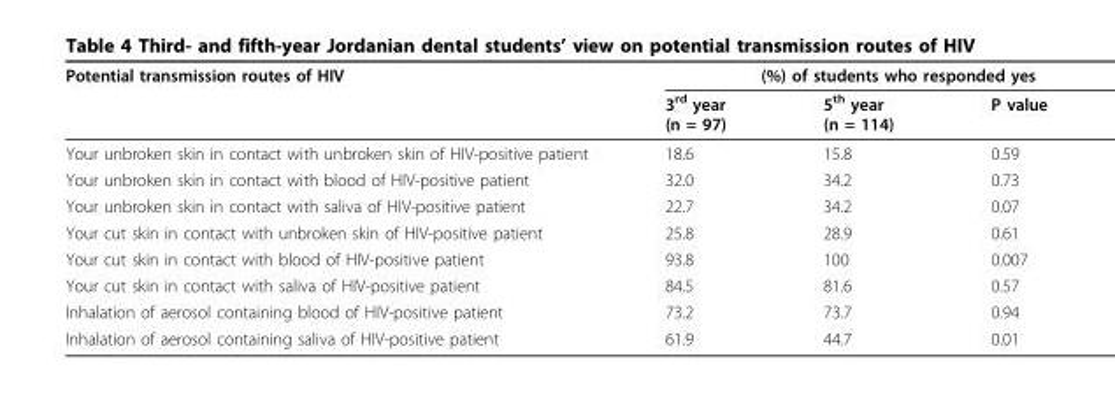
<table><thead><tr><td rowspan="2">Potential transmission routes of HIV</td><td colspan="3">(%) of students who responded yes</td></tr><tr><td>3<sup>rd</sup> year (n = 97)</td><td>5<sup>th</sup> year (n = 114)</td><td>P value</td></tr></thead><tbody><tr><td>Your unbroken skin in contact with unbroken skin of HIV-positive patient</td><td>18.6</td><td>15.8</td><td>0.59</td></tr><tr><td>Your unbroken skin in contact with blood of HIV-positive patient</td><td>32.0</td><td>34.2</td><td>0.73</td></tr><tr><td>Your unbroken skin in contact with saliva of HIV-positive patient</td><td>22.7</td><td>34.2</td><td>0.07</td></tr><tr><td>Your cut skin in contact with unbroken skin of HIV-positive patient</td><td>25.8</td><td>28.9</td><td>0.61</td></tr><tr><td>Your cut skin in contact with blood of HIV-positive patient</td><td>93.8</td><td>100</td><td>0.007</td></tr><tr><td>Your cut skin in contact with saliva of HIV-positive patient</td><td>84.5</td><td>81.6</td><td>0.57</td></tr><tr><td>Inhalation of aerosol containing blood of HIV-positive patient</td><td>73.2</td><td>73.7</td><td>0.94</td></tr><tr><td>Inhalation of aerosol containing saliva of HIV-positive patient</td><td>61.9</td><td>44.7</td><td>0.01</td></tr></tbody></table>